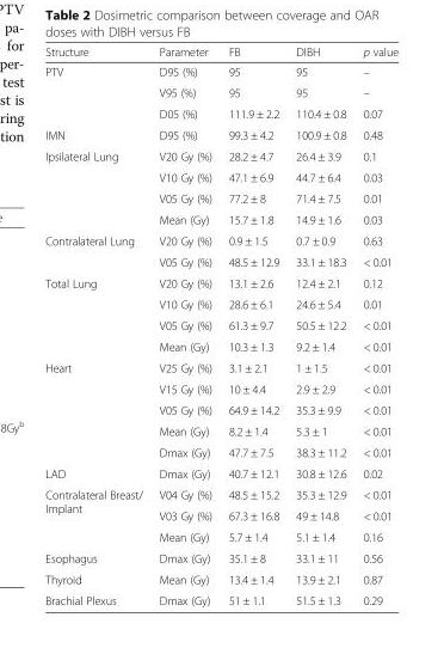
<table><thead><tr><td>Structure</td><td>Parameter</td><td>FB</td><td>DIBH</td><td>p value</td></tr></thead><tbody><tr><td rowspan="3">PTV</td><td>D95 (%)</td><td>95</td><td>95</td><td>–</td></tr><tr><td>V95 (%)</td><td>95</td><td>95</td><td>–</td></tr><tr><td>D05 (%)</td><td>111.9 ± 2.2</td><td>110.4 ± 0.8</td><td>0.07</td></tr><tr><td>IMN</td><td>D95 (%)</td><td>99.3 ± 4.2</td><td>100.9 ± 0.8</td><td>0.48</td></tr><tr><td rowspan="4">Ipsilateral Lung</td><td>V20 Gy (%)</td><td>28.2 ± 4.7</td><td>26.4 ± 3.9</td><td>0.1</td></tr><tr><td>V10 Gy (%)</td><td>47.1 ± 6.9</td><td>44.7 ± 6.4</td><td>0.03</td></tr><tr><td>V05 Gy (%)</td><td>77.2 ± 8</td><td>71.4 ± 7.5</td><td>0.01</td></tr><tr><td>Mean (Gy)</td><td>15.7 ± 1.8</td><td>14.9 ± 1.6</td><td>0.03</td></tr><tr><td rowspan="2">Contralateral Lung</td><td>V20 Gy (%)</td><td>0.9 ± 1.5</td><td>0.7 ± 0.9</td><td>0.63</td></tr><tr><td>V05 Gy (%)</td><td>48.5 ± 12.9</td><td>33.1 ± 18.3</td><td>&lt; 0.01</td></tr><tr><td rowspan="4">Total Lung</td><td>V20 Gy (%)</td><td>13.1 ± 2.6</td><td>12.4 ± 2.1</td><td>0.12</td></tr><tr><td>V10 Gy (%)</td><td>28.6 ± 6.1</td><td>24.6 ± 5.4</td><td>0.01</td></tr><tr><td>V05 Gy (%)</td><td>61.3 ± 9.7</td><td>50.5 ± 12.2</td><td>&lt; 0.01</td></tr><tr><td>Mean (Gy)</td><td>10.3 ± 1.3</td><td>9.2 ± 1.4</td><td>&lt; 0.01</td></tr><tr><td rowspan="5">Heart</td><td>V25 Gy (%)</td><td>3.1 ± 2.1</td><td>1 ± 1.5</td><td>&lt; 0.01</td></tr><tr><td>V15 Gy (%)</td><td>10 ± 4.4</td><td>2.9 ± 2.9</td><td>&lt; 0.01</td></tr><tr><td>V05 Gy (%)</td><td>64.9 ± 14.2</td><td>35.3 ± 9.9</td><td>&lt; 0.01</td></tr><tr><td>Mean (Gy)</td><td>8.2 ± 1.4</td><td>5.3 ± 1</td><td>&lt; 0.01</td></tr><tr><td>Dmax (Gy)</td><td>47.7 ± 7.5</td><td>38.3 ± 11.2</td><td>&lt; 0.01</td></tr><tr><td>LAD</td><td>Dmax (Gy)</td><td>40.7 ± 12.1</td><td>30.8 ± 12.6</td><td>0.02</td></tr><tr><td rowspan="3">Contralateral Breast/ Implant</td><td>V04 Gy (%)</td><td>48.5 ± 15.2</td><td>35.3 ± 12.9</td><td>&lt; 0.01</td></tr><tr><td>V03 Gy (%)</td><td>67.3 ± 16.8</td><td>49 ± 14.8</td><td>&lt; 0.01</td></tr><tr><td>Mean (Gy)</td><td>5.7 ± 1.4</td><td>5.1 ± 1.4</td><td>0.16</td></tr><tr><td>Esophagus</td><td>Dmax (Gy)</td><td>35.1 ± 8</td><td>33.1 ± 11</td><td>0.56</td></tr><tr><td>Thyroid</td><td>Mean (Gy)</td><td>13.4 ± 1.4</td><td>13.9 ± 2.1</td><td>0.87</td></tr><tr><td>Brachial Plexus</td><td>Dmax (Gy)</td><td>51 ± 1.1</td><td>51.5 ± 1.3</td><td>0.29</td></tr></tbody></table>